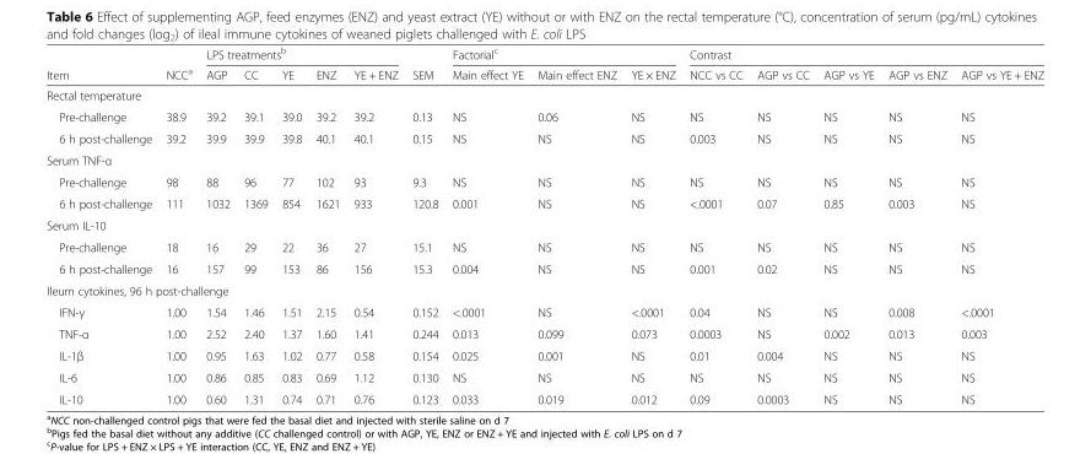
<table><thead><tr><td rowspan="2">Item</td><td rowspan="2">NCC<sup>a</sup></td><td colspan="5">LPS treatments<sup>b</sup></td><td rowspan="2">SEM</td><td colspan="3">Factorial<sup>c</sup></td><td colspan="5">Contrast</td></tr><tr><td>AGP</td><td>CC</td><td>YE</td><td>ENZ</td><td>YE + ENZ</td><td>Main effect YE</td><td>Main effect ENZ</td><td>YE × ENZ</td><td>NCC vs CC</td><td>AGP vs CC</td><td>AGP vs YE</td><td>AGP vs ENZ</td><td>AGP vs YE + ENZ</td></tr></thead><tbody><tr><td colspan="16">Rectal temperature</td></tr><tr><td>Pre-challenge</td><td>38.9</td><td>39.2</td><td>39.1</td><td>39.0</td><td>39.2</td><td>39.2</td><td>0.13</td><td>NS</td><td>0.06</td><td>NS</td><td>NS</td><td>NS</td><td>NS</td><td>NS</td><td>NS</td></tr><tr><td>6 h post-challenge</td><td>39.2</td><td>39.9</td><td>39.9</td><td>39.8</td><td>40.1</td><td>40.1</td><td>0.15</td><td>NS</td><td>NS</td><td>NS</td><td>0.003</td><td>NS</td><td>NS</td><td>NS</td><td>NS</td></tr><tr><td colspan="16">Serum TNF-α</td></tr><tr><td>Pre-challenge</td><td>98</td><td>88</td><td>96</td><td>77</td><td>102</td><td>93</td><td>9.3</td><td>NS</td><td>NS</td><td>NS</td><td>NS</td><td>NS</td><td>NS</td><td>NS</td><td>NS</td></tr><tr><td>6 h post-challenge</td><td>111</td><td>1032</td><td>1369</td><td>854</td><td>1621</td><td>933</td><td>120.8</td><td>0.001</td><td>NS</td><td>NS</td><td>&lt;.0001</td><td>0.07</td><td>0.85</td><td>0.003</td><td>NS</td></tr><tr><td colspan="16">Serum IL-10</td></tr><tr><td>Pre-challenge</td><td>18</td><td>16</td><td>29</td><td>22</td><td>36</td><td>27</td><td>15.1</td><td>NS</td><td>NS</td><td>NS</td><td>NS</td><td>NS</td><td>NS</td><td>NS</td><td>NS</td></tr><tr><td>6 h post-challenge</td><td>16</td><td>157</td><td>99</td><td>153</td><td>86</td><td>156</td><td>15.3</td><td>0.004</td><td>NS</td><td>NS</td><td>0.001</td><td>0.02</td><td>NS</td><td>NS</td><td>NS</td></tr><tr><td colspan="16">Ileum cytokines, 96 h post-challenge</td></tr><tr><td>IFN-γ</td><td>1.00</td><td>1.54</td><td>1.46</td><td>1.51</td><td>2.15</td><td>0.54</td><td>0.152</td><td>&lt;.0001</td><td>NS</td><td>&lt;.0001</td><td>0.04</td><td>NS</td><td>NS</td><td>0.008</td><td>&lt;.0001</td></tr><tr><td>TNF-α</td><td>1.00</td><td>2.52</td><td>2.40</td><td>1.37</td><td>1.60</td><td>1.41</td><td>0.244</td><td>0.013</td><td>0.099</td><td>0.073</td><td>0.0003</td><td>NS</td><td>0.002</td><td>0.013</td><td>0.003</td></tr><tr><td>IL-1β</td><td>1.00</td><td>0.95</td><td>1.63</td><td>1.02</td><td>0.77</td><td>0.58</td><td>0.154</td><td>0.025</td><td>0.001</td><td>NS</td><td>0.01</td><td>0.004</td><td>NS</td><td>NS</td><td>NS</td></tr><tr><td>IL-6</td><td>1.00</td><td>0.86</td><td>0.85</td><td>0.83</td><td>0.69</td><td>1.12</td><td>0.130</td><td>NS</td><td>NS</td><td>NS</td><td>NS</td><td>NS</td><td>NS</td><td>NS</td><td>NS</td></tr><tr><td>IL-10</td><td>1.00</td><td>0.60</td><td>1.31</td><td>0.74</td><td>0.71</td><td>0.76</td><td>0.123</td><td>0.033</td><td>0.019</td><td>0.012</td><td>0.09</td><td>0.0003</td><td>NS</td><td>NS</td><td>NS</td></tr></tbody></table>